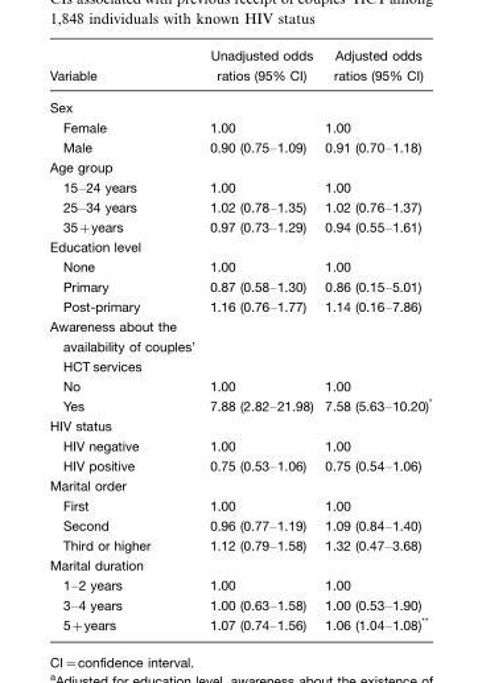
<table><thead><tr><td>Variable</td><td>Unadjusted odds ratios (95% CI)</td><td>Adjusted odds ratios (95% CI)</td></tr></thead><tbody><tr><td colspan="3">Sex</td></tr><tr><td>Female</td><td>1.00</td><td>1.00</td></tr><tr><td>Male</td><td>0.90 (0.75–1.09)</td><td>0.91 (0.70–1.18)</td></tr><tr><td colspan="3">Age group</td></tr><tr><td>15–24 years</td><td>1.00</td><td>1.00</td></tr><tr><td>25–34 years</td><td>1.02 (0.78–1.35)</td><td>1.02 (0.76–1.37)</td></tr><tr><td>35+years</td><td>0.97 (0.73–1.29)</td><td>0.94 (0.55–1.61)</td></tr><tr><td colspan="3">Education level</td></tr><tr><td>None</td><td>1.00</td><td>1.00</td></tr><tr><td>Primary</td><td>0.87 (0.58–1.30)</td><td>0.86 (0.15–5.01)</td></tr><tr><td>Post-primary</td><td>1.16 (0.76–1.77)</td><td>1.14 (0.16–7.86)</td></tr><tr><td colspan="3">Awareness about the availability of couples’ HCT services</td></tr><tr><td>No</td><td>1.00</td><td>1.00</td></tr><tr><td>Yes</td><td>7.88 (2.82–21.98)</td><td>7.58 (5.63–10.20)*</td></tr><tr><td colspan="3">HIV status</td></tr><tr><td>HIV negative</td><td>1.00</td><td>1.00</td></tr><tr><td>HIV positive</td><td>0.75 (0.53–1.06)</td><td>0.75 (0.54–1.06)</td></tr><tr><td colspan="3">Marital order</td></tr><tr><td>First</td><td>1.00</td><td>1.00</td></tr><tr><td>Second</td><td>0.96 (0.77–1.19)</td><td>1.09 (0.84–1.40)</td></tr><tr><td>Third or higher</td><td>1.12 (0.79–1.58)</td><td>1.32 (0.47–3.68)</td></tr><tr><td colspan="3">Marital duration</td></tr><tr><td>1–2 years</td><td>1.00</td><td>1.00</td></tr><tr><td>3–4 years</td><td>1.00 (0.63–1.58)</td><td>1.00 (0.53–1.90)</td></tr><tr><td>5+years</td><td>1.07 (0.74–1.56)</td><td>1.06 (1.04–1.08)**</td></tr></tbody></table>